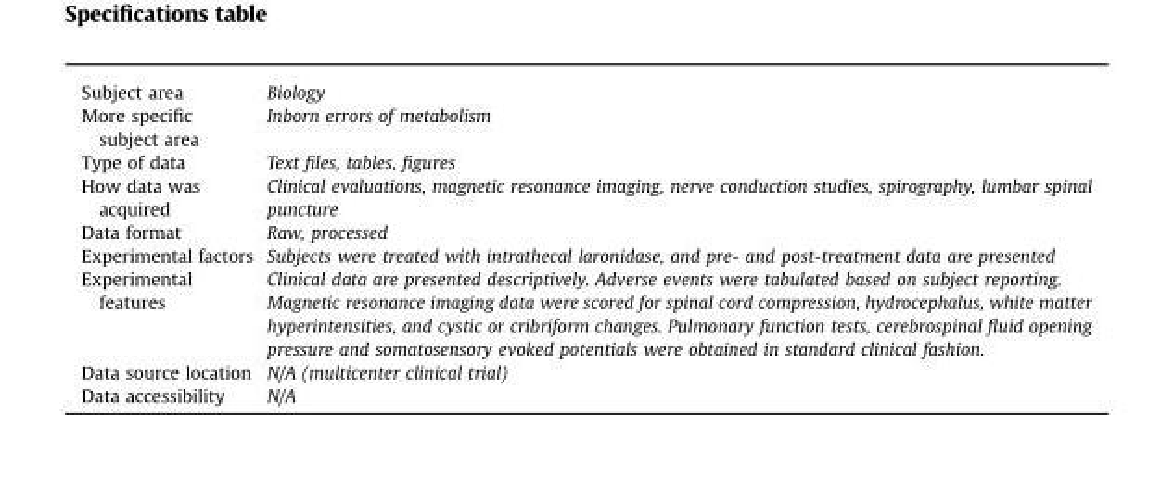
<table><tbody><tr><td>Subject area</td><td>Biology</td></tr><tr><td>More specific subject area</td><td>Inborn errors of metabolism</td></tr><tr><td>Type of data</td><td>Text files, tables, figures</td></tr><tr><td>How data was acquired</td><td>Clinical evaluations, magnetic resonance imaging, nerve conduction studies, spirography, lumbar spinal puncture</td></tr><tr><td>Data format</td><td>Raw, processed</td></tr><tr><td>Experimental factors</td><td>Subjects were treated with intrathecal laronidase, and pre- and post-treatment data are presented</td></tr><tr><td>Experimental features</td><td>Clinical data are presented descriptively. Adverse events were tabulated based on subject reporting. Magnetic resonance imaging data were scored for spinal cord compression, hydrocephalus, white matter hyperintensities, and cystic or cribriform changes. Pulmonary function tests, cerebrospinal fluid opening pressure and somatosensory evoked potentials were obtained in standard clinical fashion.</td></tr><tr><td>Data source location</td><td>N/A (multicenter clinical trial)</td></tr><tr><td>Data accessibility</td><td>N/A</td></tr></tbody></table>